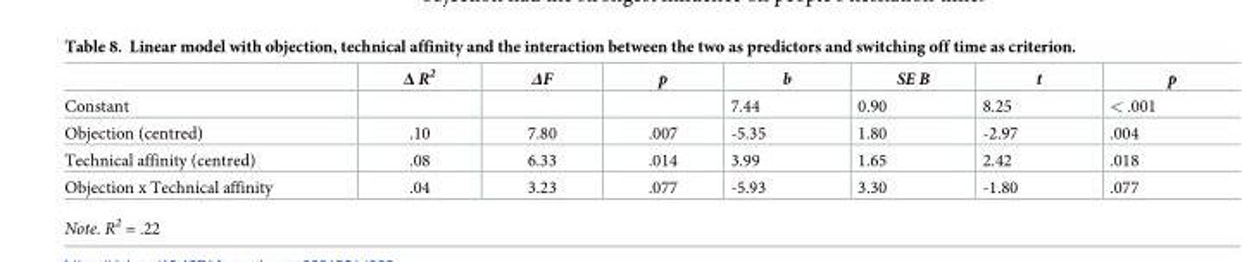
<table><thead><tr><td></td><td>Δ R<sup>2</sup></td><td>ΔF</td><td>p</td><td>b</td><td>SE B</td><td>t</td><td>p</td></tr></thead><tbody><tr><td>Constant</td><td></td><td></td><td></td><td>7.44</td><td>0.90</td><td>8.25</td><td>&lt; .001</td></tr><tr><td>Objection (centred)</td><td>.10</td><td>7.80</td><td>.007</td><td>-5.35</td><td>1.80</td><td>-2.97</td><td>.004</td></tr><tr><td>Technical affinity (centred)</td><td>.08</td><td>6.33</td><td>.014</td><td>3.99</td><td>1.65</td><td>2.42</td><td>.018</td></tr><tr><td>Objection x Technical affinity</td><td>.04</td><td>3.23</td><td>.077</td><td>-5.93</td><td>3.30</td><td>-1.80</td><td>.077</td></tr></tbody></table>